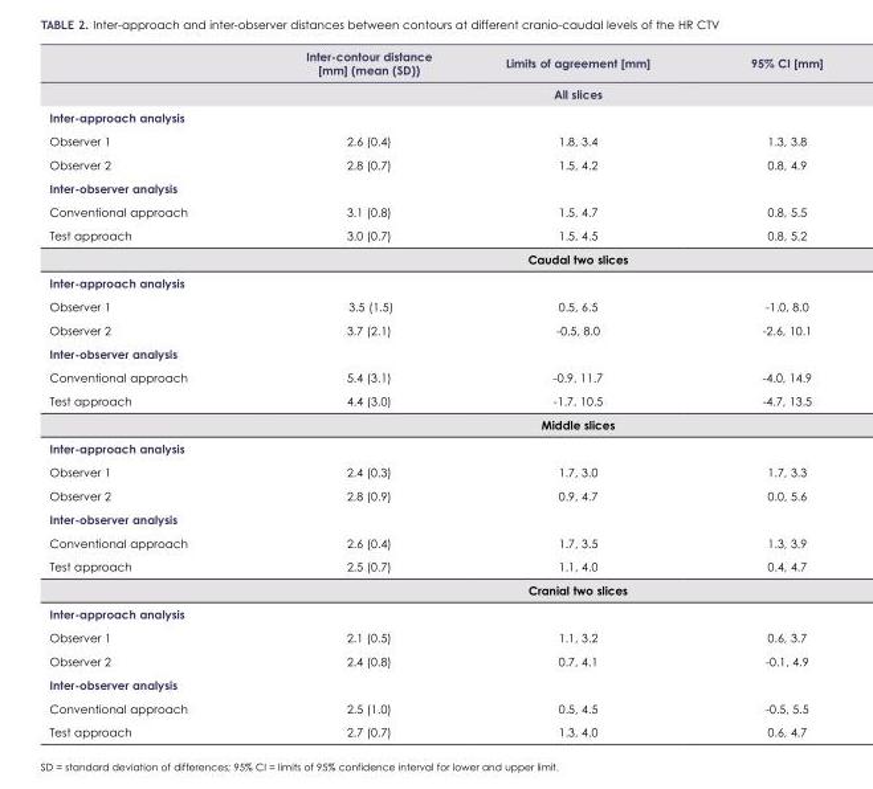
<table><thead><tr><td></td><td>Inter-contour distance [mm] (mean (SD))</td><td>Limits of agreement [mm]</td><td>95% CI [mm]</td></tr></thead><tbody><tr><td></td><td colspan="3">All slices</td></tr><tr><td colspan="4">Inter-approach analysis</td></tr><tr><td>Observer 1</td><td>2.6 (0.4)</td><td>1.8, 3.4</td><td>1.3, 3.8</td></tr><tr><td>Observer 2</td><td>2.8 (0.7)</td><td>1.5, 4.2</td><td>0.8, 4.9</td></tr><tr><td colspan="4">Inter-observer analysis</td></tr><tr><td>Conventional approach</td><td>3.1 (0.8)</td><td>1.5, 4.7</td><td>0.8, 5.5</td></tr><tr><td rowspan="2">Test approach</td><td>3.0 (0.7)</td><td>1.5, 4.5</td><td>0.8, 5.2</td></tr><tr><td colspan="3">Caudal two slices</td></tr><tr><td colspan="4">Inter-approach analysis</td></tr><tr><td>Observer 1</td><td>3.5 (1.5)</td><td>0.5, 6.5</td><td>-1.0, 8.0</td></tr><tr><td>Observer 2</td><td>3.7 (2.1)</td><td>-0.5, 8.0</td><td>-2.6, 10.1</td></tr><tr><td colspan="4">Inter-observer analysis</td></tr><tr><td>Conventional approach</td><td>5.4 (3.1)</td><td>-0.9, 11.7</td><td>-4.0, 14.9</td></tr><tr><td rowspan="2">Test approach</td><td>4.4 (3.0)</td><td>-1.7, 10.5</td><td>-4.7, 13.5</td></tr><tr><td colspan="3">Middle slices</td></tr><tr><td colspan="4">Inter-approach analysis</td></tr><tr><td>Observer 1</td><td>2.4 (0.3)</td><td>1.7, 3.0</td><td>1.7, 3.3</td></tr><tr><td>Observer 2</td><td>2.8 (0.9)</td><td>0.9, 4.7</td><td>0.0, 5.6</td></tr><tr><td colspan="4">Inter-observer analysis</td></tr><tr><td>Conventional approach</td><td>2.6 (0.4)</td><td>1.7, 3.5</td><td>1.3, 3.9</td></tr><tr><td rowspan="2">Test approach</td><td>2.5 (0.7)</td><td>1.1, 4.0</td><td>0.4, 4.7</td></tr><tr><td colspan="3">Cranial two slices</td></tr><tr><td colspan="4">Inter-approach analysis</td></tr><tr><td>Observer 1</td><td>2.1 (0.5)</td><td>1.1, 3.2</td><td>0.6, 3.7</td></tr><tr><td>Observer 2</td><td>2.4 (0.8)</td><td>0.7, 4.1</td><td>-0.1, 4.9</td></tr><tr><td colspan="4">Inter-observer analysis</td></tr><tr><td>Conventional approach</td><td>2.5 (1.0)</td><td>0.5, 4.5</td><td>-0.5, 5.5</td></tr><tr><td>Test approach</td><td>2.7 (0.7)</td><td>1.3, 4.0</td><td>0.6, 4.7</td></tr></tbody></table>